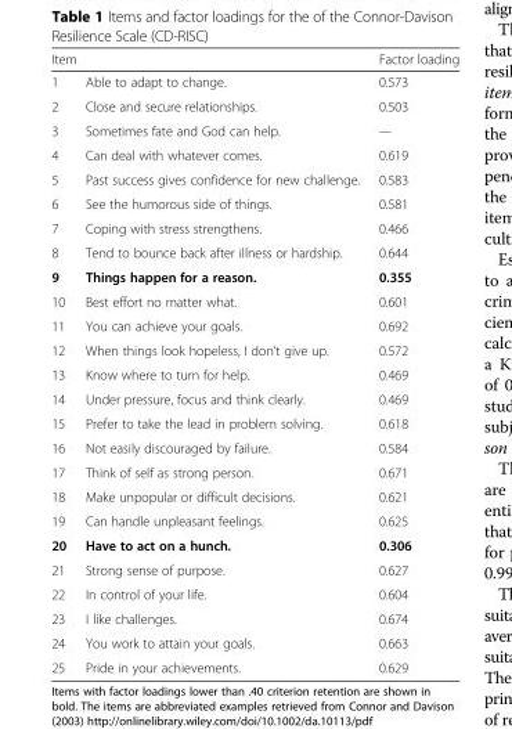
<table><thead><tr><td colspan="2">Item</td><td rowspan="2">Factor loading 0.573</td></tr><tr><td>1</td><td>Able to adapt to change.</td></tr></thead><tbody><tr><td>2</td><td>Close and secure relationships.</td><td>0.503</td></tr><tr><td>3</td><td>Sometimes fate and God can help.</td><td>---</td></tr><tr><td>4</td><td>Can deal with whatever comes.</td><td>0.619</td></tr><tr><td>5</td><td>Past success gives confidence for new challenge.</td><td>0.583</td></tr><tr><td>6</td><td>See the humorous side of things.</td><td>0.581</td></tr><tr><td>7</td><td>Coping with stress strengthens.</td><td>0.466</td></tr><tr><td>8</td><td>Tend to bounce back after illness or hardship.</td><td>0.644</td></tr><tr><td>9</td><td>Things happen for a reason.</td><td>0.355</td></tr><tr><td>10</td><td>Best effort no matter what.</td><td>0.601</td></tr><tr><td>11</td><td>You can achieve your goals.</td><td>0.692</td></tr><tr><td>12</td><td>When things look hopeless, I don’t give up.</td><td>0.572</td></tr><tr><td>13</td><td>Know where to turn for help.</td><td>0.469</td></tr><tr><td>14</td><td>Under pressure, focus and think clearly.</td><td>0.469</td></tr><tr><td>15</td><td>Prefer to take the lead in problem solving.</td><td>0.618</td></tr><tr><td>16</td><td>Not easily discouraged by failure.</td><td>0.584</td></tr><tr><td>17</td><td>Think of self as strong person.</td><td>0.671</td></tr><tr><td>18</td><td>Make unpopular or difficult decisions.</td><td>0.621</td></tr><tr><td>19</td><td>Can handle unpleasant feelings.</td><td>0.625</td></tr><tr><td>20</td><td>Have to act on a hunch.</td><td>0.306</td></tr><tr><td>21</td><td>Strong sense of purpose.</td><td>0.627</td></tr><tr><td>22</td><td>In control of your life.</td><td>0.604</td></tr><tr><td>23</td><td>I like challenges.</td><td>0.674</td></tr><tr><td>24</td><td>You work to attain your goals.</td><td>0.663</td></tr><tr><td>25</td><td>Pride in your achievements.</td><td>0.629</td></tr></tbody></table>